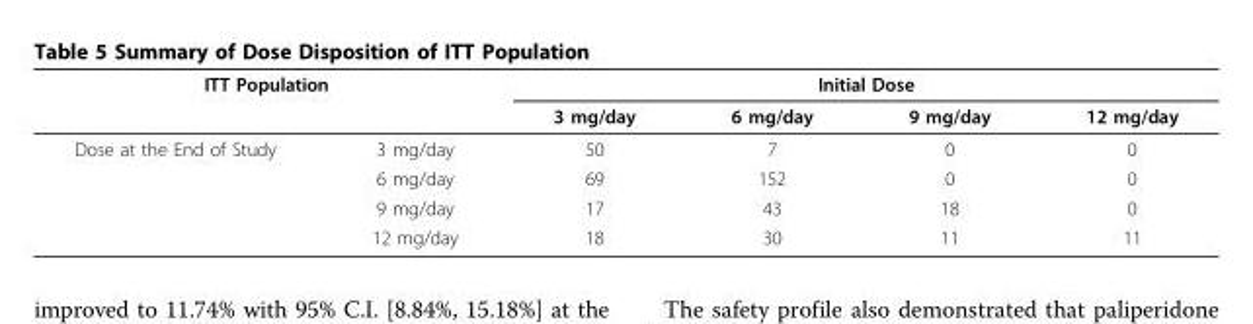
<table><thead><tr><td colspan="2">ITT Population</td><td colspan="4">Initial Dose</td></tr><tr><td></td><td></td><td>3 mg/day</td><td>6 mg/day</td><td>9 mg/day</td><td>12 mg/day</td></tr></thead><tbody><tr><td rowspan="4">Dose at the End of Study</td><td>3 mg/day</td><td>50</td><td>7</td><td>0</td><td>0</td></tr><tr><td>6 mg/day</td><td>69</td><td>152</td><td>0</td><td>0</td></tr><tr><td>9 mg/day</td><td>17</td><td>43</td><td>18</td><td>0</td></tr><tr><td>12 mg/day</td><td>18</td><td>30</td><td>11</td><td>11</td></tr></tbody></table>